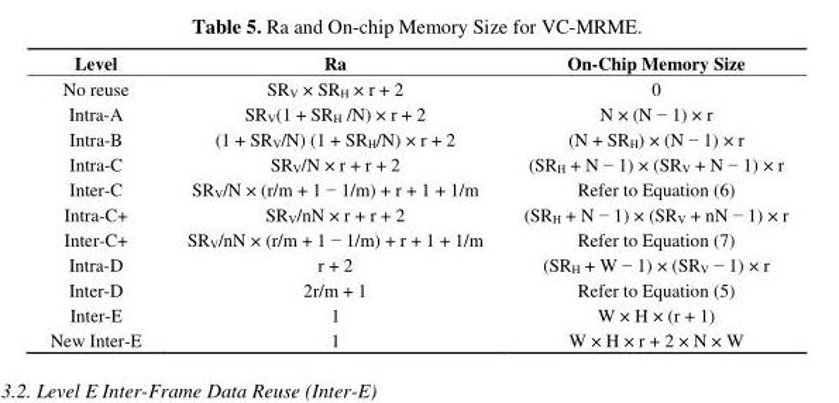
<table><thead><tr><td>Level</td><td>Ra</td><td>On-Chip Memory Size</td></tr></thead><tbody><tr><td>No reuse</td><td>SR<sub>V</sub> × SR<sub>H</sub> × r + 2</td><td>0</td></tr><tr><td>Intra-A</td><td>SR<sub>V</sub>(1 + SR<sub>H</sub> /N) × r + 2</td><td>N × (N − 1) × r</td></tr><tr><td>Intra-B</td><td>(1 + SR<sub>V</sub>/N) (1 + SR<sub>H</sub>/N) × r + 2</td><td>(N + SR<sub>H</sub>) × (N − 1) × r</td></tr><tr><td>Intra-C</td><td>SR<sub>V</sub>/N × r + r + 2</td><td>(SR<sub>H</sub> + N − 1) × (SR<sub>V</sub> + N − 1) × r</td></tr><tr><td>Inter-C</td><td>SR<sub>V</sub>/N × (r/m + 1 − 1/m) + r + 1 + 1/m</td><td>Refer to Equation (6)</td></tr><tr><td>Intra-C+</td><td>SR<sub>V</sub>/nN × r + r + 2</td><td>(SR<sub>H</sub> + N − 1) × (SR<sub>V</sub> + nN − 1) × r</td></tr><tr><td>Inter-C+</td><td>SR<sub>V</sub>/nN × (r/m + 1 − 1/m) + r + 1 + 1/m</td><td>Refer to Equation (7)</td></tr><tr><td>Intra-D</td><td>r + 2</td><td>(SR<sub>H</sub> + W − 1) × (SR<sub>V</sub> − 1) × r</td></tr><tr><td>Inter-D</td><td>2r/m + 1</td><td>Refer to Equation (5)</td></tr><tr><td>Inter-E</td><td>1</td><td>W × H × (r + 1)</td></tr><tr><td>New Inter-E</td><td>1</td><td>W × H × r + 2 × N × W</td></tr></tbody></table>